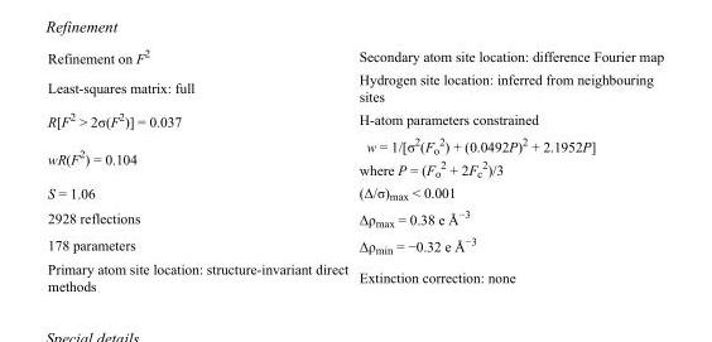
<table><tbody><tr><td>Refinement on F<sup>2</sup></td><td>Secondary atom site location: difference Fourier map</td></tr><tr><td>Least-squares matrix: full</td><td>Hydrogen site location: inferred from neighbouring sites</td></tr><tr><td>R[F<sup>2</sup> &gt; 2σ(F<sup>2</sup>)] = 0.037</td><td>H-atom parameters constrained</td></tr><tr><td>wR(F<sup>2</sup>) = 0.104</td><td>w = 1/[σ<sup>2</sup>(F<sub>o</sub> <sup>2</sup>) + (0.0492P)<sup>2</sup> + 2.1952P] where P = (F<sub>o</sub> <sup>2</sup> + 2F<sub>c</sub> <sup>2</sup>)/3</td></tr><tr><td>S = 1.06</td><td>(Δ/σ)<sub>max</sub> &lt; 0.001</td></tr><tr><td>2928 reflections</td><td>Δρ<sub>max</sub> = 0.38 e Å<sup>−3</sup></td></tr><tr><td>178 parameters</td><td>Δρ<sub>min</sub> = −0.32 e Å<sup>−3</sup></td></tr><tr><td>Primary atom site location: structure-invariant direct methods</td><td>Extinction correction: none</td></tr></tbody></table>